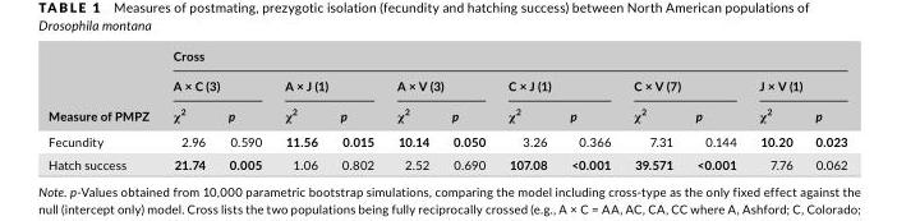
<table><thead><tr><td rowspan="3">Measure of PMPZ</td><td colspan="12">Cross</td></tr><tr><td colspan="2">A × C (3)</td><td colspan="2">A × J (1)</td><td colspan="2">A × V (3)</td><td colspan="2">C × J (1)</td><td colspan="2">C × V (7)</td><td colspan="2">J × V (1)</td></tr><tr><td>χ<sup>2</sup></td><td>p</td><td>χ<sup>2</sup></td><td>p</td><td>χ<sup>2</sup></td><td>p</td><td>χ<sup>2</sup></td><td>p</td><td>χ<sup>2</sup></td><td>p</td><td>χ<sup>2</sup></td><td>p</td></tr></thead><tbody><tr><td>Fecundity</td><td>2.96</td><td>0.590</td><td>11.56</td><td>0.015</td><td>10.14</td><td>0.050</td><td>3.26</td><td>0.366</td><td>7.31</td><td>0.144</td><td>10.20</td><td>0.023</td></tr><tr><td>Hatch success</td><td>21.74</td><td>0.005</td><td>1.06</td><td>0.802</td><td>2.52</td><td>0.690</td><td>107.08</td><td>&lt;0.001</td><td>39.571</td><td>&lt;0.001</td><td>7.76</td><td>0.062</td></tr></tbody></table>